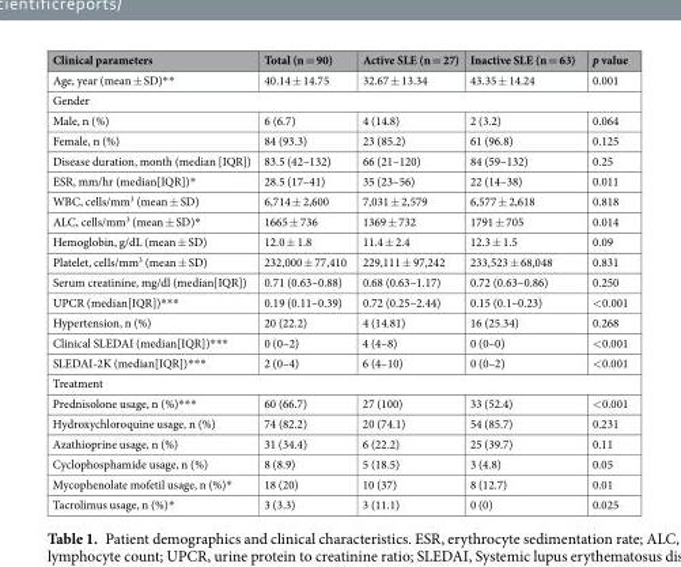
<table><thead><tr><td>Clinical parameters</td><td>Total (n = 90)</td><td>Active SLE (n = 27)</td><td>Inactive SLE (n = 63)</td><td>p value</td></tr></thead><tbody><tr><td>Age, year (mean ± SD)**</td><td>40.14 ± 14.75</td><td>32.67 ± 13.34</td><td>43.35 ± 14.24</td><td>0.001</td></tr><tr><td colspan="5">Gender</td></tr><tr><td>Male, n (%)</td><td>6 (6.7)</td><td>4 (14.8)</td><td>2 (3.2)</td><td>0.064</td></tr><tr><td>Female, n (%)</td><td>84 (93.3)</td><td>23 (85.2)</td><td>61 (96.8)</td><td>0.125</td></tr><tr><td>Disease duration, month (median [IQR])</td><td>83.5 (42–132)</td><td>66 (21–120)</td><td>84 (59–132)</td><td>0.25</td></tr><tr><td>ESR, mm/hr (median[IQR])*</td><td>28.5 (17–41)</td><td>35 (23–56)</td><td>22 (14–38)</td><td>0.011</td></tr><tr><td>WBC, cells/mm<sup>3</sup> (mean ± SD)</td><td>6,714 ± 2,600</td><td>7,031 ± 2,579</td><td>6,577 ± 2,618</td><td>0.818</td></tr><tr><td>ALC, cells/mm<sup>3</sup> (mean ± SD)*</td><td>1665 ± 736</td><td>1369 ± 732</td><td>1791 ± 705</td><td>0.014</td></tr><tr><td>Hemoglobin, g/dL (mean ± SD)</td><td>12.0 ± 1.8</td><td>11.4 ± 2.4</td><td>12.3 ± 1.5</td><td>0.09</td></tr><tr><td>Platelet, cells/mm<sup>3</sup> (mean ± SD)</td><td>232,000 ± 77,410</td><td>229,111 ± 97,242</td><td>233,523 ± 68,048</td><td>0.831</td></tr><tr><td>Serum creatinine, mg/dl (median[IQR])</td><td>0.71 (0.63–0.88)</td><td>0.68 (0.63–1.17)</td><td>0.72 (0.63–0.86)</td><td>0.250</td></tr><tr><td>UPCR (median[IQR])***</td><td>0.19 (0.11–0.39)</td><td>0.72 (0.25–2.44)</td><td>0.15 (0.1–0.23)</td><td>&lt;0.001</td></tr><tr><td>Hypertension, n (%)</td><td>20 (22.2)</td><td>4 (14.81)</td><td>16 (25.34)</td><td>0.268</td></tr><tr><td>Clinical SLEDAI (median[IQR])***</td><td>0 (0–2)</td><td>4 (4–8)</td><td>0 (0–0)</td><td>&lt;0.001</td></tr><tr><td>SLEDAI-2K (median[IQR])***</td><td>2 (0–4)</td><td>6 (4–10)</td><td>0 (0–2)</td><td>&lt;0.001</td></tr><tr><td colspan="5">Treatment</td></tr><tr><td>Prednisolone usage, n (%)***</td><td>60 (66.7)</td><td>27 (100)</td><td>33 (52.4)</td><td>&lt;0.001</td></tr><tr><td>Hydroxychloroquine usage, n (%)</td><td>74 (82.2)</td><td>20 (74.1)</td><td>54 (85.7)</td><td>0.231</td></tr><tr><td>Azathioprine usage, n (%)</td><td>31 (34.4)</td><td>6 (22.2)</td><td>25 (39.7)</td><td>0.11</td></tr><tr><td>Cyclophosphamide usage, n (%)</td><td>8 (8.9)</td><td>5 (18.5)</td><td>3 (4.8)</td><td>0.05</td></tr><tr><td>Mycophenolate mofetil usage, n (%)*</td><td>18 (20)</td><td>10 (37)</td><td>8 (12.7)</td><td>0.01</td></tr><tr><td>Tacrolimus usage, n (%)*</td><td>3 (3.3)</td><td>3 (11.1)</td><td>0 (0)</td><td>0.025</td></tr></tbody></table>